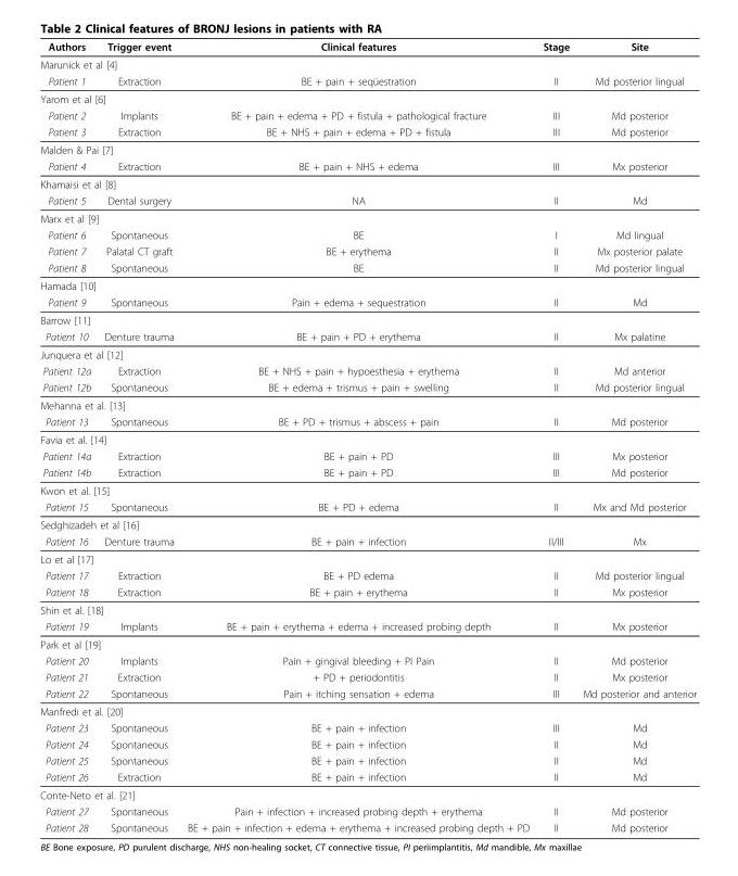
<table><thead><tr><td>Authors</td><td>Trigger event</td><td>Clinical features</td><td>Stage</td><td>Site</td></tr></thead><tbody><tr><td colspan="5">Marunick et al [4]</td></tr><tr><td>Patient 1</td><td>Extraction</td><td>BE + pain + seqüestration</td><td>II</td><td>Md posterior lingual</td></tr><tr><td colspan="5">Yarom et al [6]</td></tr><tr><td>Patient 2</td><td>Implants</td><td>BE + pain + edema + PD + fistula + pathological fracture</td><td>III</td><td>Md posterior</td></tr><tr><td>Patient 3</td><td>Extraction</td><td>BE + NHS + pain + edema + PD + fistula</td><td>III</td><td>Md posterior</td></tr><tr><td colspan="5">Malden &amp; Pai [7]</td></tr><tr><td>Patient 4</td><td>Extraction</td><td>BE + pain + NHS + edema</td><td>III</td><td>Mx posterior</td></tr><tr><td colspan="5">Khamaisi et al [8]</td></tr><tr><td>Patient 5</td><td>Dental surgery</td><td>NA</td><td>II</td><td>Md</td></tr><tr><td colspan="5">Marx et al [9]</td></tr><tr><td>Patient 6</td><td>Spontaneous</td><td>BE</td><td>I</td><td>Md lingual</td></tr><tr><td>Patient 7</td><td>Palatal CT graft</td><td>BE + erythema</td><td>II</td><td>Mx posterior palate</td></tr><tr><td>Patient 8</td><td>Spontaneous</td><td>BE</td><td>II</td><td>Md posterior lingual</td></tr><tr><td colspan="5">Hamada [10]</td></tr><tr><td>Patient 9</td><td>Spontaneous</td><td>Pain + edema + sequestration</td><td>II</td><td>Md</td></tr><tr><td colspan="5">Barrow [11]</td></tr><tr><td>Patient 10</td><td>Denture trauma</td><td>BE + pain + PD + erythema</td><td>II</td><td>Mx palatine</td></tr><tr><td colspan="5">Junquera et al [12]</td></tr><tr><td>Patient 12a</td><td>Extraction</td><td>BE + NHS + pain + hypoesthesia + erythema</td><td>II</td><td>Md anterior</td></tr><tr><td>Patient 12b</td><td>Spontaneous</td><td>BE + edema + trismus + pain + swelling</td><td>II</td><td>Md posterior lingual</td></tr><tr><td colspan="5">Mehanna et al. [13]</td></tr><tr><td>Patient 13</td><td>Spontaneous</td><td>BE + PD + trismus + abscess + pain</td><td>II</td><td>Md posterior</td></tr><tr><td colspan="5">Favia et al. [14]</td></tr><tr><td>Patient 14a</td><td>Extraction</td><td>BE + pain + PD</td><td>III</td><td>Mx posterior</td></tr><tr><td>Patient 14b</td><td>Extraction</td><td>BE + pain + PD</td><td>III</td><td>Md posterior</td></tr><tr><td colspan="5">Kwon et al. [15]</td></tr><tr><td>Patient 15</td><td>Spontaneous</td><td>BE + PD + edema</td><td>II</td><td>Mx and Md posterior</td></tr><tr><td colspan="5">Sedghizadeh et al [16]</td></tr><tr><td>Patient 16</td><td>Denture trauma</td><td>BE + pain + infection</td><td>II/III</td><td>Mx</td></tr><tr><td colspan="5">Lo et al [17]</td></tr><tr><td>Patient 17</td><td>Extraction</td><td>BE + PD edema</td><td>II</td><td>Md posterior lingual</td></tr><tr><td>Patient 18</td><td>Extraction</td><td>BE + pain + erythema</td><td>II</td><td>Mx posterior</td></tr><tr><td colspan="5">Shin et al. [18]</td></tr><tr><td>Patient 19</td><td>Implants</td><td>BE + pain + erythema + edema + increased probing depth</td><td>II</td><td>Mx posterior</td></tr><tr><td colspan="5">Park et al [19]</td></tr><tr><td>Patient 20</td><td>Implants</td><td>Pain + gingival bleeding + PI Pain</td><td>II</td><td>Md posterior</td></tr><tr><td>Patient 21</td><td>Extraction</td><td>+ PD + periodontitis</td><td>II</td><td>Mx posterior</td></tr><tr><td>Patient 22</td><td>Spontaneous</td><td>Pain + itching sensation + edema</td><td>III</td><td>Md posterior and anterior</td></tr><tr><td colspan="5">Manfredi et al. [20]</td></tr><tr><td>Patient 23</td><td>Spontaneous</td><td>BE + pain + infection</td><td>III</td><td>Md</td></tr><tr><td>Patient 24</td><td>Spontaneous</td><td>BE + pain + infection</td><td>II</td><td>Md</td></tr><tr><td>Patient 25</td><td>Spontaneous</td><td>BE + pain + infection</td><td>II</td><td>Md</td></tr><tr><td>Patient 26</td><td>Extraction</td><td>BE + pain + infection</td><td>II</td><td>Md</td></tr><tr><td colspan="5">Conte-Neto et al. [21]</td></tr><tr><td>Patient 27</td><td>Spontaneous</td><td>Pain + infection + increased probing depth + erythema</td><td>II</td><td>Md posterior</td></tr><tr><td>Patient 28</td><td>Spontaneous</td><td>BE + pain + infection + edema + erythema + increased probing depth + PD</td><td>II</td><td>Md posterior</td></tr></tbody></table>